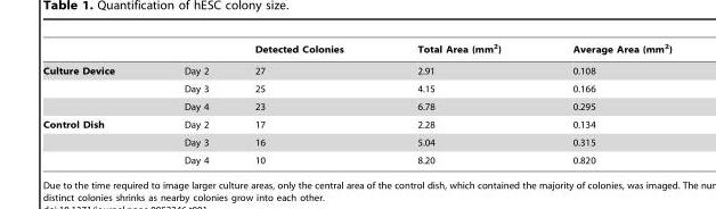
<table><thead><tr><td></td><td></td><td>Detected Colonies</td><td>Total Area (mm<sup>2</sup>)</td><td>Average Area (mm<sup>2</sup>)</td></tr></thead><tbody><tr><td rowspan="3">Culture Device</td><td>Day 2</td><td>27</td><td>2.91</td><td>0.108</td></tr><tr><td>Day 3</td><td>25</td><td>4.15</td><td>0.166</td></tr><tr><td>Day 4</td><td>23</td><td>6.78</td><td>0.295</td></tr><tr><td rowspan="3">Control Dish</td><td>Day 2</td><td>17</td><td>2.28</td><td>0.134</td></tr><tr><td>Day 3</td><td>16</td><td>5.04</td><td>0.315</td></tr><tr><td>Day 4</td><td>10</td><td>8.20</td><td>0.820</td></tr></tbody></table>